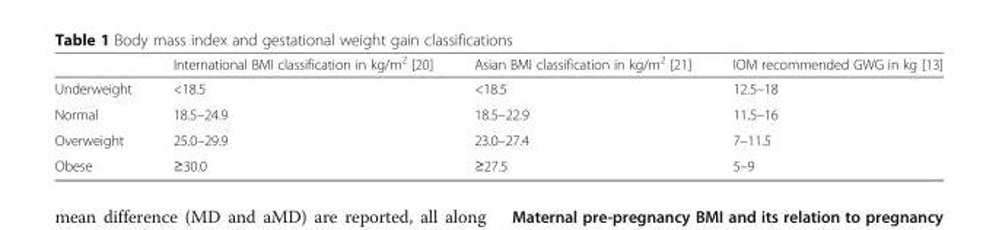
<table><thead><tr><td></td><td>International BMI classification in kg/m<sup>2</sup> [20]</td><td>Asian BMI classification in kg/m<sup>2</sup> [21]</td><td>IOM recommended GWG in kg [13]</td></tr></thead><tbody><tr><td>Underweight</td><td>&lt;18.5</td><td>&lt;18.5</td><td>12.5–18</td></tr><tr><td>Normal</td><td>18.5–24.9</td><td>18.5–22.9</td><td>11.5–16</td></tr><tr><td>Overweight</td><td>25.0–29.9</td><td>23.0–27.4</td><td>7–11.5</td></tr><tr><td>Obese</td><td>≥30.0</td><td>≥27.5</td><td>5–9</td></tr></tbody></table>